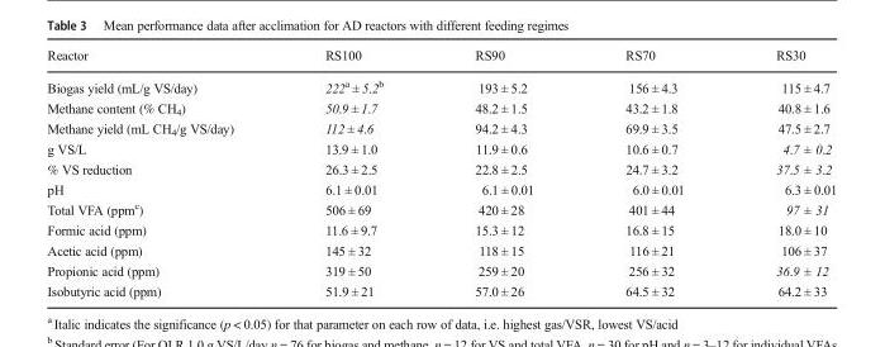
<table><thead><tr><td>Reactor</td><td>RS100</td><td>RS90</td><td>RS70</td><td>RS30</td></tr></thead><tbody><tr><td>Biogas yield (mL/g VS/day)</td><td>222<sup>a</sup> ± 5.2<sup>b</sup></td><td>193 ± 5.2</td><td>156 ± 4.3</td><td>115 ± 4.7</td></tr><tr><td>Methane content (% CH<sub>4</sub>)</td><td>50.9 ± 1.7</td><td>48.2 ± 1.5</td><td>43.2 ± 1.8</td><td>40.8 ± 1.6</td></tr><tr><td>Methane yield (mL CH<sub>4</sub>/g VS/day)</td><td>112 ± 4.6</td><td>94.2 ± 4.3</td><td>69.9 ± 3.5</td><td>47.5 ± 2.7</td></tr><tr><td>g VS/L</td><td>13.9 ± 1.0</td><td>11.9 ± 0.6</td><td>10.6 ± 0.7</td><td>4.7 ± 0.2</td></tr><tr><td>% VS reduction</td><td>26.3 ± 2.5</td><td>22.8 ± 2.5</td><td>24.7 ± 3.2</td><td>37.5 ± 3.2</td></tr><tr><td>pH</td><td>6.1 ± 0.01</td><td>6.1 ± 0.01</td><td>6.0 ± 0.01</td><td>6.3 ± 0.01</td></tr><tr><td>Total VFA (ppm<sup>c</sup>)</td><td>506 ± 69</td><td>420 ± 28</td><td>401 ± 44</td><td>97 ± 31</td></tr><tr><td>Formic acid (ppm)</td><td>11.6 ± 9.7</td><td>15.3 ± 12</td><td>16.8 ± 15</td><td>18.0 ± 10</td></tr><tr><td>Acetic acid (ppm)</td><td>145 ± 32</td><td>118 ± 15</td><td>116 ± 21</td><td>106 ± 37</td></tr><tr><td>Propionic acid (ppm)</td><td>319 ± 50</td><td>259 ± 20</td><td>256 ± 32</td><td>36.9 ± 12</td></tr><tr><td>Isobutyric acid (ppm)</td><td>51.9 ± 21</td><td>57.0 ± 26</td><td>64.5 ± 32</td><td>64.2 ± 33</td></tr></tbody></table>